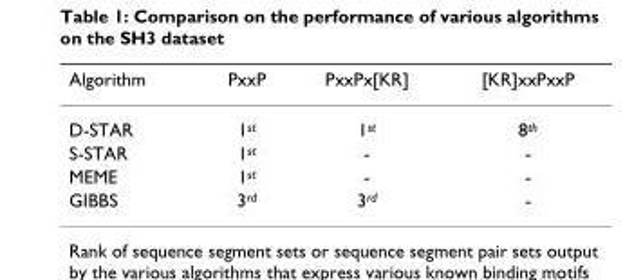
<table><thead><tr><td>Algorithm</td><td>PxxP</td><td>PxxPx[KR]</td><td>[KR]xxPxxP</td></tr></thead><tbody><tr><td>D-STAR</td><td>1<sup>st</sup></td><td>1<sup>st</sup></td><td>8<sup>th</sup></td></tr><tr><td>S-STAR</td><td>1<sup>st</sup></td><td>-</td><td>-</td></tr><tr><td>MEME</td><td>1<sup>st</sup></td><td>-</td><td>-</td></tr><tr><td>GIBBS</td><td>3<sup>rd</sup></td><td>3<sup>rd</sup></td><td>-</td></tr></tbody></table>